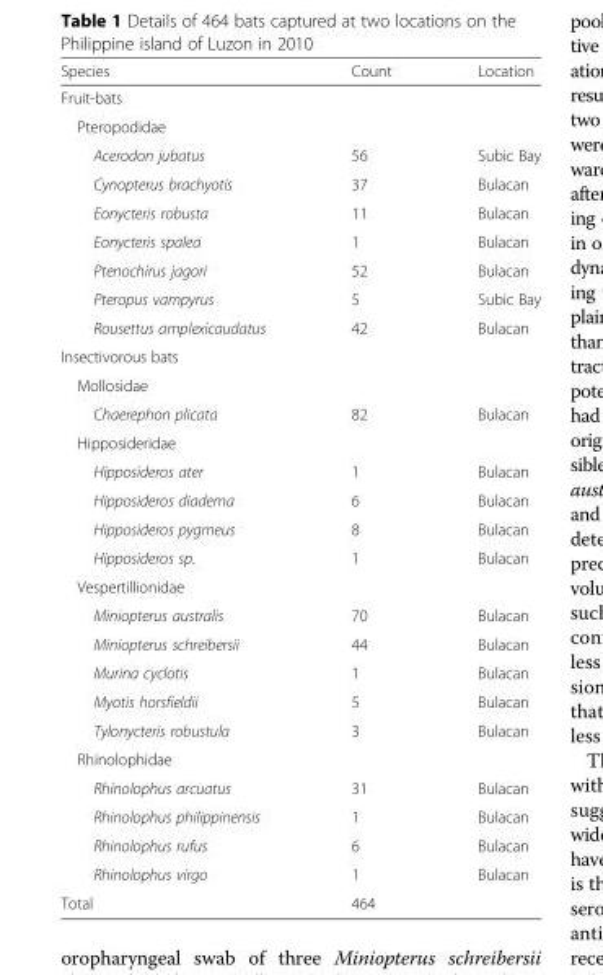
<table><thead><tr><td>Species</td><td>Count</td><td>Location</td></tr></thead><tbody><tr><td colspan="3">Fruit-bats</td></tr><tr><td colspan="3">Pteropodidae</td></tr><tr><td>Acerodon jubatus</td><td>56</td><td>Subic Bay</td></tr><tr><td>Cynopterus brachyotis</td><td>37</td><td>Bulacan</td></tr><tr><td>Eonycteris robusta</td><td>11</td><td>Bulacan</td></tr><tr><td>Eonycteris spalea</td><td>1</td><td>Bulacan</td></tr><tr><td>Ptenochirus jagori</td><td>52</td><td>Bulacan</td></tr><tr><td>Pteropus vampyrus</td><td>5</td><td>Subic Bay</td></tr><tr><td>Rousettus amplexicaudatus</td><td>42</td><td>Bulacan</td></tr><tr><td colspan="3">Insectivorous bats</td></tr><tr><td colspan="3">Mollosidae</td></tr><tr><td>Chaerephon plicata</td><td>82</td><td>Bulacan</td></tr><tr><td colspan="3">Hipposideridae</td></tr><tr><td>Hipposideros ater</td><td>1</td><td>Bulacan</td></tr><tr><td>Hipposideros diadema</td><td>6</td><td>Bulacan</td></tr><tr><td>Hipposideros pygmeus</td><td>8</td><td>Bulacan</td></tr><tr><td>Hipposideros sp.</td><td>1</td><td>Bulacan</td></tr><tr><td colspan="3">Vespertillionidae</td></tr><tr><td>Miniopterus australis</td><td>70</td><td>Bulacan</td></tr><tr><td>Miniopterus schreibersii</td><td>44</td><td>Bulacan</td></tr><tr><td>Murina cyclotis</td><td>1</td><td>Bulacan</td></tr><tr><td>Myotis horsfieldii</td><td>5</td><td>Bulacan</td></tr><tr><td>Tylonycteris robustula</td><td>3</td><td>Bulacan</td></tr><tr><td colspan="3">Rhinolophidae</td></tr><tr><td>Rhinolophus arcuatus</td><td>31</td><td>Bulacan</td></tr><tr><td>Rhinolophus philippinensis</td><td>1</td><td>Bulacan</td></tr><tr><td>Rhinolophus rufus</td><td>6</td><td>Bulacan</td></tr><tr><td>Rhinolophus virgo</td><td>1</td><td>Bulacan</td></tr><tr><td>Total</td><td>464</td><td></td></tr></tbody></table>